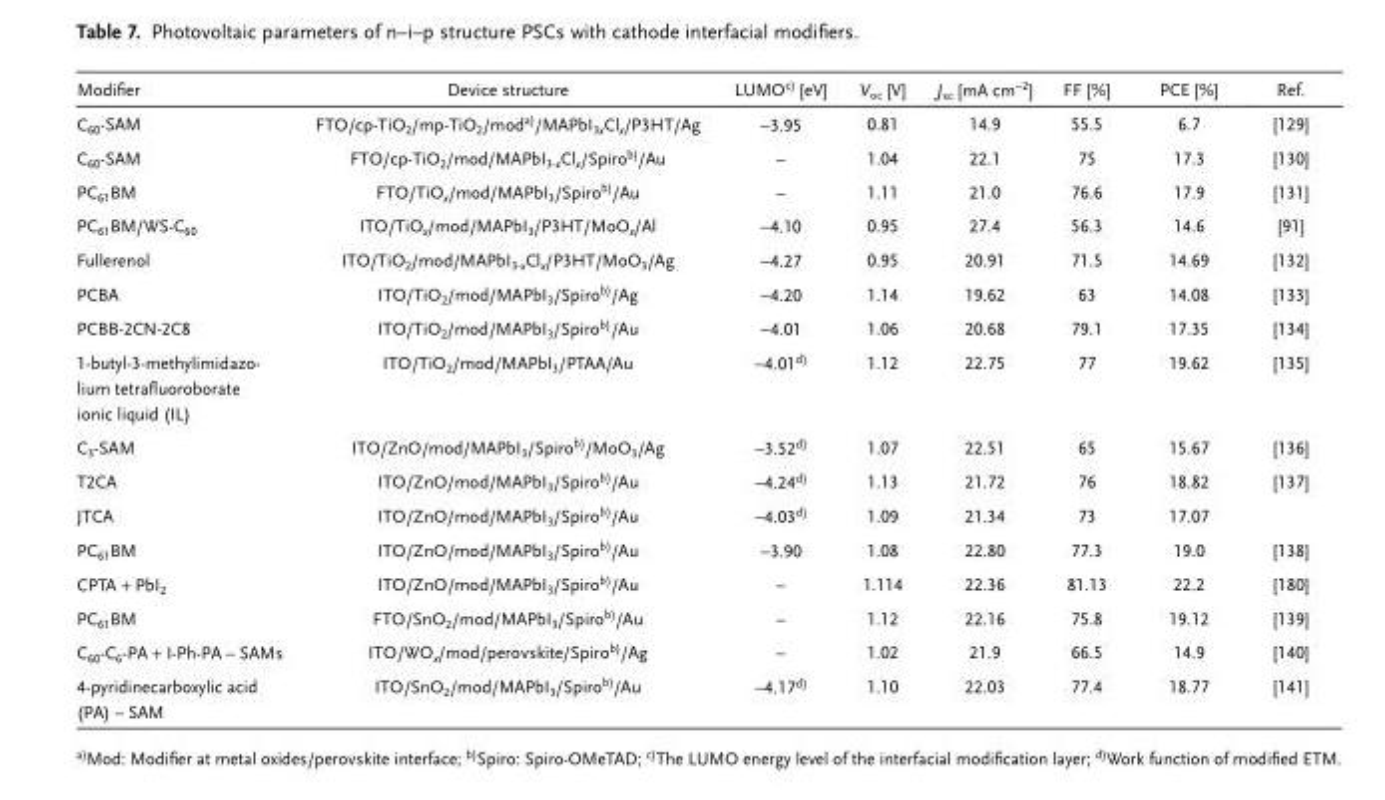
<table><thead><tr><td>Modifier</td><td>Device structure</td><td>LUMOc) [eV]</td><td>V<sub>oc</sub> [V]</td><td>J<sub>sc</sub> [mA cm<sup>−2</sup>]</td><td>FF [%]</td><td>PCE [%]</td><td>Ref.</td></tr></thead><tbody><tr><td>C<sub>60</sub>-SAM</td><td>FTO/cp-TiO<sub>2</sub>/mp-TiO<sub>2</sub>/moda)/MAPbI<sub>3x</sub>Cl<sub>x</sub>/P3HT/Ag</td><td>−3.95</td><td>0.81</td><td>14.9</td><td>55.5</td><td>6.7</td><td>[129]</td></tr><tr><td>C<sub>60</sub>-SAM</td><td>FTO/cp-TiO<sub>2</sub>/mod/MAPbI<sub>3-x</sub>Cl<sub>x</sub>/Spirob)/Au</td><td>–</td><td>1.04</td><td>22.1</td><td>75</td><td>17.3</td><td>[130]</td></tr><tr><td>PC<sub>61</sub>BM</td><td>FTO/TiO<sub>x</sub>/mod/MAPbI<sub>3</sub>/Spirob)/Au</td><td>–</td><td>1.11</td><td>21.0</td><td>76.6</td><td>17.9</td><td>[131]</td></tr><tr><td>PC<sub>61</sub>BM/WS-C<sub>60</sub></td><td>ITO/TiO<sub>x</sub>/mod/MAPbI<sub>3</sub>/P3HT/MoO<sub>x</sub>/Al</td><td>−4.10</td><td>0.95</td><td>27.4</td><td>56.3</td><td>14.6</td><td>[91]</td></tr><tr><td>Fullerenol</td><td>ITO/TiO<sub>2</sub>/mod/MAPbI<sub>3-x</sub>Cl<sub>x</sub>/P3HT/MoO<sub>3</sub>/Ag</td><td>−4.27</td><td>0.95</td><td>20.91</td><td>71.5</td><td>14.69</td><td>[132]</td></tr><tr><td>PCBA</td><td>ITO/TiO<sub>2</sub>/mod/MAPbI<sub>3</sub>/Spirob)/Ag</td><td>−4.20</td><td>1.14</td><td>19.62</td><td>63</td><td>14.08</td><td>[133]</td></tr><tr><td>PCBB-2CN-2C8</td><td>ITO/TiO<sub>2</sub>/mod/MAPbI<sub>3</sub>/Spirob)/Au</td><td>−4.01</td><td>1.06</td><td>20.68</td><td>79.1</td><td>17.35</td><td>[134]</td></tr><tr><td>1-butyl-3-methylimidazo- lium tetrafluoroborate ionic liquid (IL)</td><td>ITO/TiO<sub>2</sub>/mod/MAPbI<sub>3</sub>/PTAA/Au</td><td>−4.01d)</td><td>1.12</td><td>22.75</td><td>77</td><td>19.62</td><td>[135]</td></tr><tr><td>C<sub>3</sub>-SAM</td><td>ITO/ZnO/mod/MAPbI<sub>3</sub>/Spirob)/MoO<sub>3</sub>/Ag</td><td>−3.52d)</td><td>1.07</td><td>22.51</td><td>65</td><td>15.67</td><td>[136]</td></tr><tr><td>T2CA</td><td>ITO/ZnO/mod/MAPbI<sub>3</sub>/Spirob)/Au</td><td>−4.24d)</td><td>1.13</td><td>21.72</td><td>76</td><td>18.82</td><td>[137]</td></tr><tr><td>JTCA</td><td>ITO/ZnO/mod/MAPbI<sub>3</sub>/Spirob)/Au</td><td>−4.03d)</td><td>1.09</td><td>21.34</td><td>73</td><td>17.07</td><td></td></tr><tr><td>PC<sub>61</sub>BM</td><td>ITO/ZnO/mod/MAPbI<sub>3</sub>/Spirob)/Au</td><td>−3.90</td><td>1.08</td><td>22.80</td><td>77.3</td><td>19.0</td><td>[138]</td></tr><tr><td>CPTA + PbI<sub>2</sub></td><td>ITO/ZnO/mod/MAPbI<sub>3</sub>/Spirob)/Au</td><td>–</td><td>1.114</td><td>22.36</td><td>81.13</td><td>22.2</td><td>[180]</td></tr><tr><td>PC<sub>61</sub>BM</td><td>FTO/SnO<sub>2</sub>/mod/MAPbI<sub>3</sub>/Spirob)/Au</td><td>–</td><td>1.12</td><td>22.16</td><td>75.8</td><td>19.12</td><td>[139]</td></tr><tr><td>C<sub>60</sub>-C<sub>6</sub>-PA + I-Ph-PA – SAMs</td><td>ITO/WO<sub>x</sub>/mod/perovskite/Spirob)/Ag</td><td>–</td><td>1.02</td><td>21.9</td><td>66.5</td><td>14.9</td><td>[140]</td></tr><tr><td>4-pyridinecarboxylic acid (PA) – SAM</td><td>ITO/SnO<sub>2</sub>/mod/MAPbI<sub>3</sub>/Spirob)/Au</td><td>−4.17d)</td><td>1.10</td><td>22.03</td><td>77.4</td><td>18.77</td><td>[141]</td></tr></tbody></table>